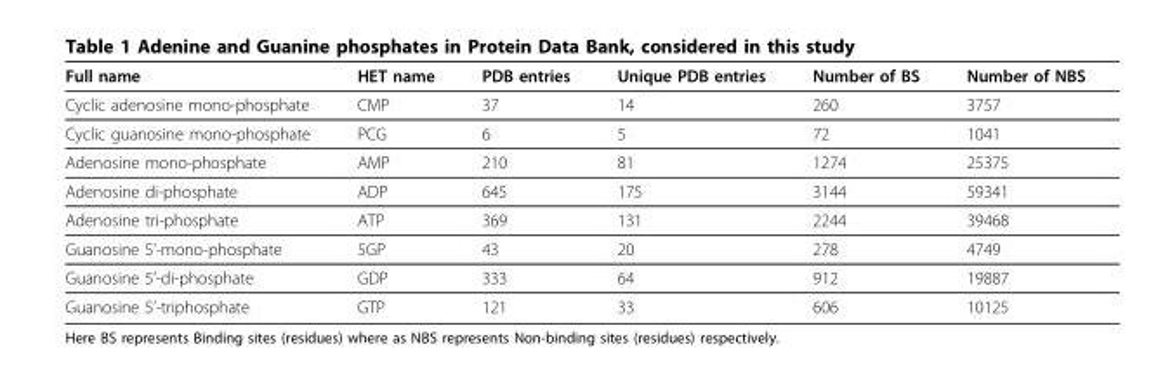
<table><thead><tr><td>Full name</td><td>HET name</td><td>PDB entries</td><td>Unique PDB entries</td><td>Number of BS</td><td>Number of NBS</td></tr></thead><tbody><tr><td>Cyclic adenosine mono-phosphate</td><td>CMP</td><td>37</td><td>14</td><td>260</td><td>3757</td></tr><tr><td>Cyclic guanosine mono-phosphate</td><td>PCG</td><td>6</td><td>5</td><td>72</td><td>1041</td></tr><tr><td>Adenosine mono-phosphate</td><td>AMP</td><td>210</td><td>81</td><td>1274</td><td>25375</td></tr><tr><td>Adenosine di-phosphate</td><td>ADP</td><td>645</td><td>175</td><td>3144</td><td>59341</td></tr><tr><td>Adenosine tri-phosphate</td><td>ATP</td><td>369</td><td>131</td><td>2244</td><td>39468</td></tr><tr><td>Guanosine 5’-mono-phosphate</td><td>5GP</td><td>43</td><td>20</td><td>278</td><td>4749</td></tr><tr><td>Guanosine 5’-di-phosphate</td><td>GDP</td><td>333</td><td>64</td><td>912</td><td>19887</td></tr><tr><td>Guanosine 5’-triphosphate</td><td>GTP</td><td>121</td><td>33</td><td>606</td><td>10125</td></tr></tbody></table>